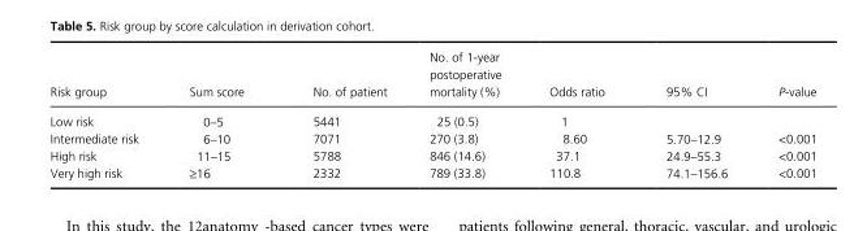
<table><thead><tr><td>Risk group</td><td>Sum score</td><td>No. of patient</td><td>No. of 1- year postoperative mortality (%)</td><td>Odds ratio</td><td>95% CI</td><td>P- value</td></tr></thead><tbody><tr><td>Low risk</td><td>0–5</td><td>5441</td><td>25 (0.5)</td><td>1</td><td></td><td></td></tr><tr><td>Intermediate risk</td><td>6–10</td><td>7071</td><td>270 (3.8)</td><td>8.60</td><td>5.70–12.9</td><td>&lt;0.001</td></tr><tr><td>High risk</td><td>11–15</td><td>5788</td><td>846 (14.6)</td><td>37.1</td><td>24.9–55.3</td><td>&lt;0.001</td></tr><tr><td>Very high risk</td><td>≥16</td><td>2332</td><td>789 (33.8)</td><td>110.8</td><td>74.1–156.6</td><td>&lt;0.001</td></tr></tbody></table>